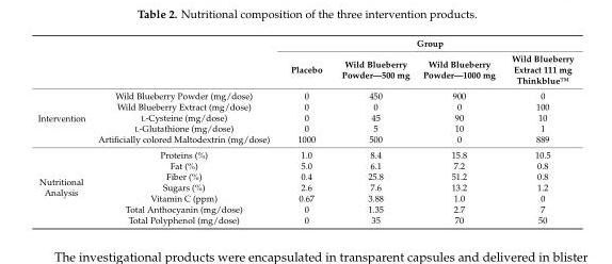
<table><thead><tr><td rowspan="2"></td><td rowspan="2"></td><td colspan="4">Group</td></tr><tr><td>Placebo</td><td>Wild Blueberry Powder—500 mg</td><td>Wild Blueberry Powder—1000 mg</td><td>Wild Blueberry Extract 111 mg Thinkblue™</td></tr></thead><tbody><tr><td rowspan="5">Intervention</td><td>Wild Blueberry Powder (mg/dose)</td><td>0</td><td>450</td><td>900</td><td>0</td></tr><tr><td>Wild Blueberry Extract (mg/dose)</td><td>0</td><td>0</td><td>0</td><td>100</td></tr><tr><td>L-Cysteine (mg/dose)</td><td>0</td><td>45</td><td>90</td><td>10</td></tr><tr><td>L-Glutathione (mg/dose)</td><td>0</td><td>5</td><td>10</td><td>1</td></tr><tr><td>Artificially colored Maltodextrin (mg/dose)</td><td>1000</td><td>500</td><td>0</td><td>889</td></tr><tr><td rowspan="7">Nutritional Analysis</td><td>Proteins (%)</td><td>1.0</td><td>8.4</td><td>15.8</td><td>10.5</td></tr><tr><td>Fat (%)</td><td>5.0</td><td>6.1</td><td>7.2</td><td>0.8</td></tr><tr><td>Fiber (%)</td><td>0.4</td><td>25.8</td><td>51.2</td><td>0.8</td></tr><tr><td>Sugars (%)</td><td>2.6</td><td>7.6</td><td>13.2</td><td>1.2</td></tr><tr><td>Vitamin C (ppm)</td><td>0.67</td><td>3.88</td><td>1.0</td><td>0</td></tr><tr><td>Total Anthocyanin (mg/dose)</td><td>0</td><td>1.35</td><td>2.7</td><td>7</td></tr><tr><td>Total Polyphenol (mg/dose)</td><td>0</td><td>35</td><td>70</td><td>50</td></tr></tbody></table>